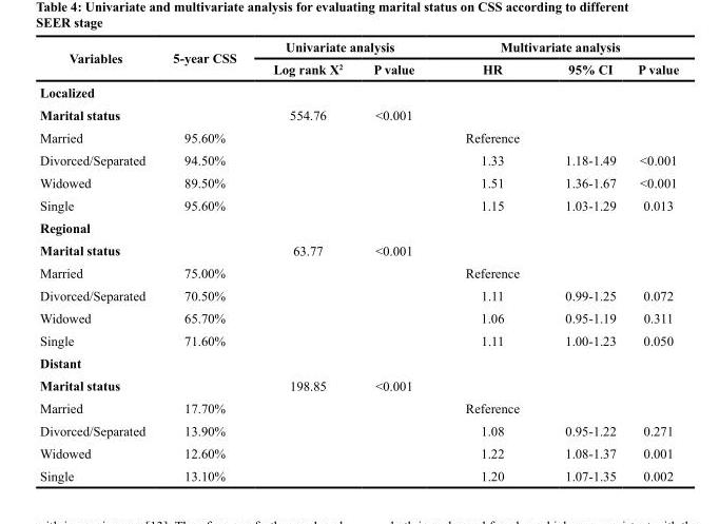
<table><thead><tr><td rowspan="2">Variables</td><td rowspan="2">5-year CSS</td><td colspan="2">Univariate analysis</td><td colspan="3">Multivariate analysis</td></tr><tr><td>Log rank Χ<sup>2</sup></td><td>P value</td><td>HR</td><td>95% CI</td><td>P value</td></tr></thead><tbody><tr><td colspan="7">Localized</td></tr><tr><td>Marital status</td><td></td><td>554.76</td><td>&lt;0.001</td><td></td><td></td><td></td></tr><tr><td>Married</td><td>95.60%</td><td></td><td></td><td>Reference</td><td></td><td></td></tr><tr><td>Divorced/Separated</td><td>94.50%</td><td></td><td></td><td>1.33</td><td>1.18-1.49</td><td>&lt;0.001</td></tr><tr><td>Widowed</td><td>89.50%</td><td></td><td></td><td>1.51</td><td>1.36-1.67</td><td>&lt;0.001</td></tr><tr><td>Single</td><td>95.60%</td><td></td><td></td><td>1.15</td><td>1.03-1.29</td><td>0.013</td></tr><tr><td colspan="7">Regional</td></tr><tr><td>Marital status</td><td></td><td>63.77</td><td>&lt;0.001</td><td></td><td></td><td></td></tr><tr><td>Married</td><td>75.00%</td><td></td><td></td><td>Reference</td><td></td><td></td></tr><tr><td>Divorced/Separated</td><td>70.50%</td><td></td><td></td><td>1.11</td><td>0.99-1.25</td><td>0.072</td></tr><tr><td>Widowed</td><td>65.70%</td><td></td><td></td><td>1.06</td><td>0.95-1.19</td><td>0.311</td></tr><tr><td>Single</td><td>71.60%</td><td></td><td></td><td>1.11</td><td>1.00-1.23</td><td>0.050</td></tr><tr><td colspan="7">Distant</td></tr><tr><td>Marital status</td><td></td><td>198.85</td><td>&lt;0.001</td><td></td><td></td><td></td></tr><tr><td>Married</td><td>17.70%</td><td></td><td></td><td>Reference</td><td></td><td></td></tr><tr><td>Divorced/Separated</td><td>13.90%</td><td></td><td></td><td>1.08</td><td>0.95-1.22</td><td>0.271</td></tr><tr><td>Widowed</td><td>12.60%</td><td></td><td></td><td>1.22</td><td>1.08-1.37</td><td>0.001</td></tr><tr><td>Single</td><td>13.10%</td><td></td><td></td><td>1.20</td><td>1.07-1.35</td><td>0.002</td></tr></tbody></table>